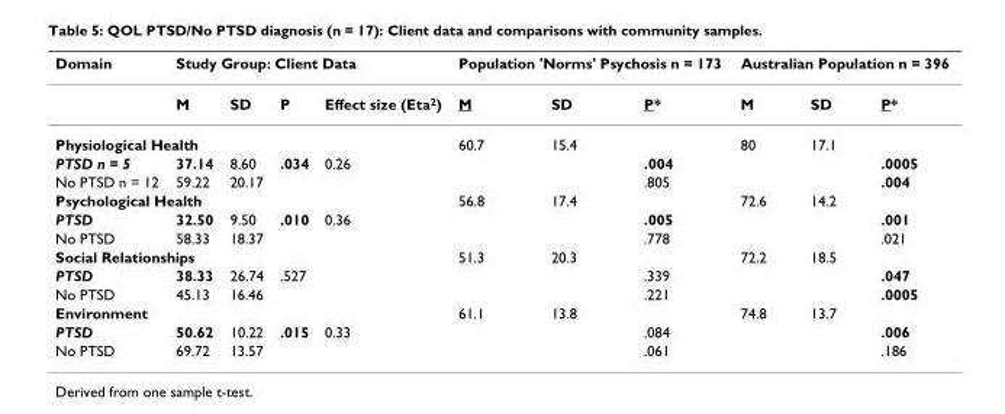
<table><thead><tr><td rowspan="2">Domain</td><td colspan="4">Study Group: Client Data</td><td colspan="3">Population &#x27;Norms&#x27; Psychosis n = 173</td><td colspan="3">Australian Population n = 396</td></tr><tr><td>M</td><td>SD</td><td>P</td><td>Effect size (Eta<sup>2</sup>)</td><td>M</td><td>SD</td><td>P*</td><td>M</td><td>SD</td><td>P*</td></tr></thead><tbody><tr><td colspan="5">Physiological Health</td><td>60.7</td><td>15.4</td><td></td><td>80</td><td>17.1</td><td></td></tr><tr><td>PTSD n = 5</td><td>37.14</td><td>8.60</td><td>.034</td><td>0.26</td><td></td><td></td><td>.004</td><td></td><td></td><td>.0005</td></tr><tr><td>No PTSD n = 12</td><td>59.22</td><td>20.17</td><td></td><td></td><td></td><td></td><td>.805</td><td></td><td></td><td>.004</td></tr><tr><td colspan="5">Psychological Health</td><td>56.8</td><td>17.4</td><td></td><td>72.6</td><td>14.2</td><td></td></tr><tr><td>PTSD</td><td>32.50</td><td>9.50</td><td>.010</td><td>0.36</td><td></td><td></td><td>.005</td><td></td><td></td><td>.001</td></tr><tr><td>No PTSD</td><td>58.33</td><td>18.37</td><td></td><td></td><td></td><td></td><td>.778</td><td></td><td></td><td>.021</td></tr><tr><td colspan="5">Social Relationships</td><td>51.3</td><td>20.3</td><td></td><td>72.2</td><td>18.5</td><td></td></tr><tr><td>PTSD</td><td>38.33</td><td>26.74</td><td>.527</td><td></td><td></td><td></td><td>.339</td><td></td><td></td><td>.047</td></tr><tr><td>No PTSD</td><td>45.13</td><td>16.46</td><td></td><td></td><td></td><td></td><td>.221</td><td></td><td></td><td>.0005</td></tr><tr><td colspan="5">Environment</td><td>61.1</td><td>13.8</td><td></td><td>74.8</td><td>13.7</td><td></td></tr><tr><td>PTSD</td><td>50.62</td><td>10.22</td><td>.015</td><td>0.33</td><td></td><td></td><td>.084</td><td></td><td></td><td>.006</td></tr><tr><td>No PTSD</td><td>69.72</td><td>13.57</td><td></td><td></td><td></td><td></td><td>.061</td><td></td><td></td><td>.186</td></tr></tbody></table>